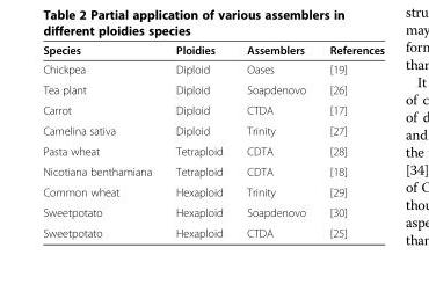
<table><thead><tr><td>Species</td><td>Ploidies</td><td>Assemblers</td><td>References</td></tr></thead><tbody><tr><td>Chickpea</td><td>Diploid</td><td>Oases</td><td>[19]</td></tr><tr><td>Tea plant</td><td>Diploid</td><td>Soapdenovo</td><td>[26]</td></tr><tr><td>Carrot</td><td>Diploid</td><td>CTDA</td><td>[17]</td></tr><tr><td>Camelina sativa</td><td>Diploid</td><td>Trinity</td><td>[27]</td></tr><tr><td>Pasta wheat</td><td>Tetraploid</td><td>CDTA</td><td>[28]</td></tr><tr><td>Nicotiana benthamiana</td><td>Tetraploid</td><td>CDTA</td><td>[18]</td></tr><tr><td>Common wheat</td><td>Hexaploid</td><td>Trinity</td><td>[29]</td></tr><tr><td>Sweetpotato</td><td>Hexaploid</td><td>Soapdenovo</td><td>[30]</td></tr><tr><td>Sweetpotato</td><td>Hexaploid</td><td>CTDA</td><td>[25]</td></tr></tbody></table>